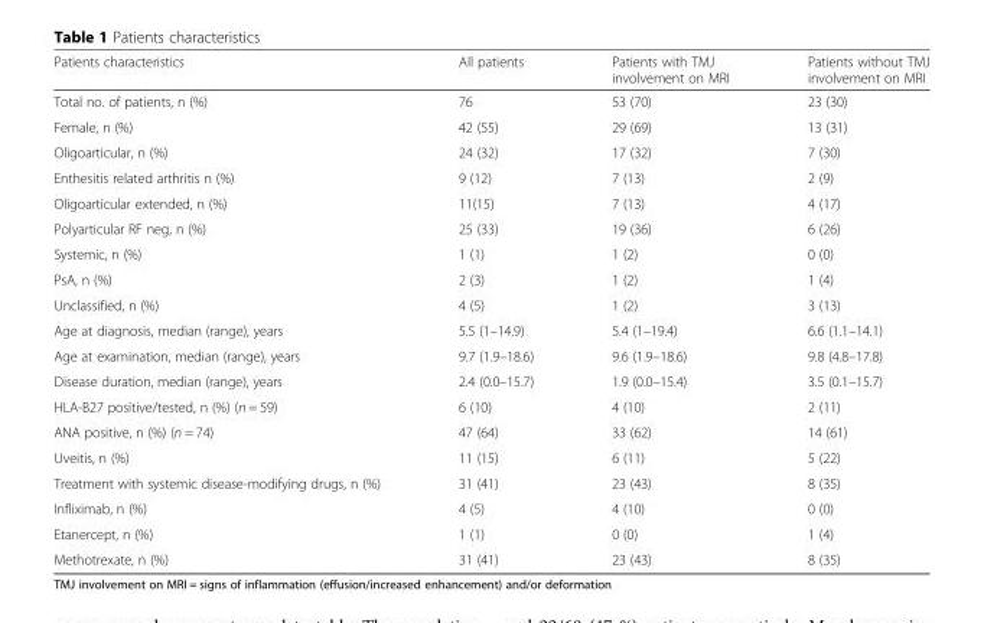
<table><thead><tr><td>Patients characteristics</td><td>All patients</td><td>Patients with TMJ involvement on MRI</td><td>Patients without TMJ involvement on MRI</td></tr></thead><tbody><tr><td>Total no. of patients, n (%)</td><td>76</td><td>53 (70)</td><td>23 (30)</td></tr><tr><td>Female, n (%)</td><td>42 (55)</td><td>29 (69)</td><td>13 (31)</td></tr><tr><td>Oligoarticular, n (%)</td><td>24 (32)</td><td>17 (32)</td><td>7 (30)</td></tr><tr><td>Enthesitis related arthritis n (%)</td><td>9 (12)</td><td>7 (13)</td><td>2 (9)</td></tr><tr><td>Oligoarticular extended, n (%)</td><td>11(15)</td><td>7 (13)</td><td>4 (17)</td></tr><tr><td>Polyarticular RF neg, n (%)</td><td>25 (33)</td><td>19 (36)</td><td>6 (26)</td></tr><tr><td>Systemic, n (%)</td><td>1 (1)</td><td>1 (2)</td><td>0 (0)</td></tr><tr><td>PsA, n (%)</td><td>2 (3)</td><td>1 (2)</td><td>1 (4)</td></tr><tr><td>Unclassified, n (%)</td><td>4 (5)</td><td>1 (2)</td><td>3 (13)</td></tr><tr><td>Age at diagnosis, median (range), years</td><td>5.5 (1–14.9)</td><td>5.4 (1–19.4)</td><td>6.6 (1.1–14.1)</td></tr><tr><td>Age at examination, median (range), years</td><td>9.7 (1.9–18.6)</td><td>9.6 (1.9–18.6)</td><td>9.8 (4.8–17.8)</td></tr><tr><td>Disease duration, median (range), years</td><td>2.4 (0.0–15.7)</td><td>1.9 (0.0–15.4)</td><td>3.5 (0.1–15.7)</td></tr><tr><td>HLA-B27 positive/tested, n (%) (n = 59)</td><td>6 (10)</td><td>4 (10)</td><td>2 (11)</td></tr><tr><td>ANA positive, n (%) (n = 74)</td><td>47 (64)</td><td>33 (62)</td><td>14 (61)</td></tr><tr><td>Uveitis, n (%)</td><td>11 (15)</td><td>6 (11)</td><td>5 (22)</td></tr><tr><td>Treatment with systemic disease-modifying drugs, n (%)</td><td>31 (41)</td><td>23 (43)</td><td>8 (35)</td></tr><tr><td>Infliximab, n (%)</td><td>4 (5)</td><td>4 (10)</td><td>0 (0)</td></tr><tr><td>Etanercept, n (%)</td><td>1 (1)</td><td>0 (0)</td><td>1 (4)</td></tr><tr><td>Methotrexate, n (%)</td><td>31 (41)</td><td>23 (43)</td><td>8 (35)</td></tr></tbody></table>